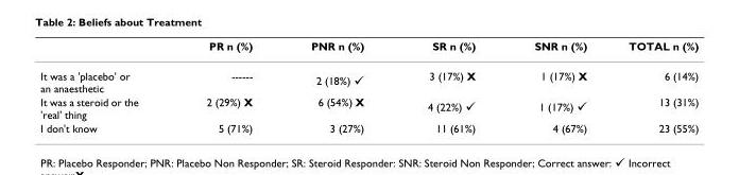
<table><thead><tr><td></td><td>PR n (%)</td><td>PNR n (%)</td><td>SR n (%)</td><td>SNR n (%)</td><td>TOTAL n (%)</td></tr></thead><tbody><tr><td>It was a &#x27;placebo&#x27; or an anaesthetic</td><td>------</td><td>2 (18%) �</td><td>3 (17%) X</td><td>1 (17%) X</td><td>6 (14%)</td></tr><tr><td>It was a steroid or the &#x27;real&#x27; thing</td><td>2 (29%) X</td><td>6 (54%) X</td><td>4 (22%) �</td><td>1 (17%) �</td><td>13 (31%)</td></tr><tr><td>I don&#x27;t know</td><td>5 (71%)</td><td>3 (27%)</td><td>11 (61%)</td><td>4 (67%)</td><td>23 (55%)</td></tr></tbody></table>